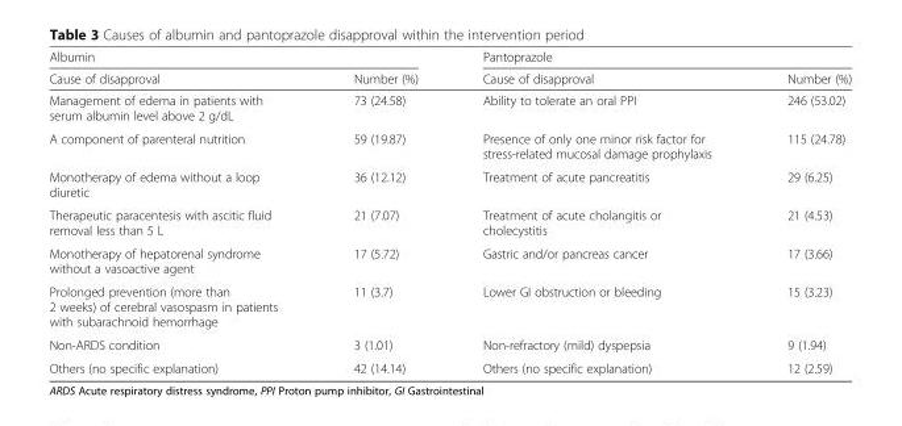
<table><thead><tr><td colspan="2">Albumin</td><td colspan="2">Pantoprazole</td></tr><tr><td>Cause of disapproval</td><td>Number (%)</td><td>Cause of disapproval</td><td>Number (%)</td></tr></thead><tbody><tr><td>Management of edema in patients with serum albumin level above 2 g/dL</td><td>73 (24.58)</td><td>Ability to tolerate an oral PPI</td><td>246 (53.02)</td></tr><tr><td>A component of parenteral nutrition</td><td>59 (19.87)</td><td>Presence of only one minor risk factor for stress-related mucosal damage prophylaxis</td><td>115 (24.78)</td></tr><tr><td>Monotherapy of edema without a loop diuretic</td><td>36 (12.12)</td><td>Treatment of acute pancreatitis</td><td>29 (6.25)</td></tr><tr><td>Therapeutic paracentesis with ascitic fluid removal less than 5 L</td><td>21 (7.07)</td><td>Treatment of acute cholangitis or cholecystitis</td><td>21 (4.53)</td></tr><tr><td>Monotherapy of hepatorenal syndrome without a vasoactive agent</td><td>17 (5.72)</td><td>Gastric and/or pancreas cancer</td><td>17 (3.66)</td></tr><tr><td>Prolonged prevention (more than 2 weeks) of cerebral vasospasm in patients with subarachnoid hemorrhage</td><td>11 (3.7)</td><td>Lower GI obstruction or bleeding</td><td>15 (3.23)</td></tr><tr><td>Non-ARDS condition</td><td>3 (1.01)</td><td>Non-refractory (mild) dyspepsia</td><td>9 (1.94)</td></tr><tr><td>Others (no specific explanation)</td><td>42 (14.14)</td><td>Others (no specific explanation)</td><td>12 (2.59)</td></tr></tbody></table>